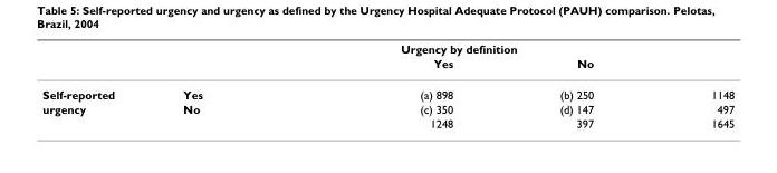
<table><thead><tr><td rowspan="2"></td><td rowspan="2"></td><td colspan="2">Urgency by definition</td><td rowspan="2"></td></tr><tr><td>Yes</td><td>No</td></tr></thead><tbody><tr><td>Self-reported</td><td>Yes</td><td>(a) 898</td><td>(b) 250</td><td>1148</td></tr><tr><td rowspan="2">urgency</td><td>No</td><td>(c) 350</td><td>(d) 147</td><td>497</td></tr><tr><td></td><td>1248</td><td>397</td><td>1645</td></tr></tbody></table>